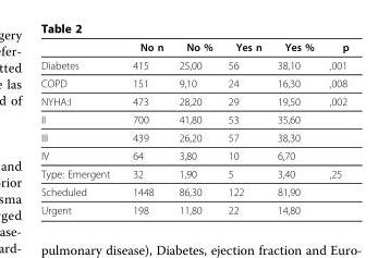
<table><thead><tr><td></td><td>No n</td><td>No %</td><td>Yes n</td><td>Yes %</td><td>p</td></tr></thead><tbody><tr><td>Diabetes</td><td>415</td><td>25,00</td><td>56</td><td>38,10</td><td>,001</td></tr><tr><td>COPD</td><td>151</td><td>9,10</td><td>24</td><td>16,30</td><td>,008</td></tr><tr><td>NYHA:I</td><td>473</td><td>28,20</td><td>29</td><td>19,50</td><td>,002</td></tr><tr><td>II</td><td>700</td><td>41,80</td><td>53</td><td>35,60</td><td></td></tr><tr><td>III</td><td>439</td><td>26,20</td><td>57</td><td>38,30</td><td></td></tr><tr><td>IV</td><td>64</td><td>3,80</td><td>10</td><td>6,70</td><td></td></tr><tr><td>Type: Emergent</td><td>32</td><td>1,90</td><td>5</td><td>3,40</td><td>,25</td></tr><tr><td>Scheduled</td><td>1448</td><td>86,30</td><td>122</td><td>81,90</td><td></td></tr><tr><td>Urgent</td><td>198</td><td>11,80</td><td>22</td><td>14,80</td><td></td></tr></tbody></table>